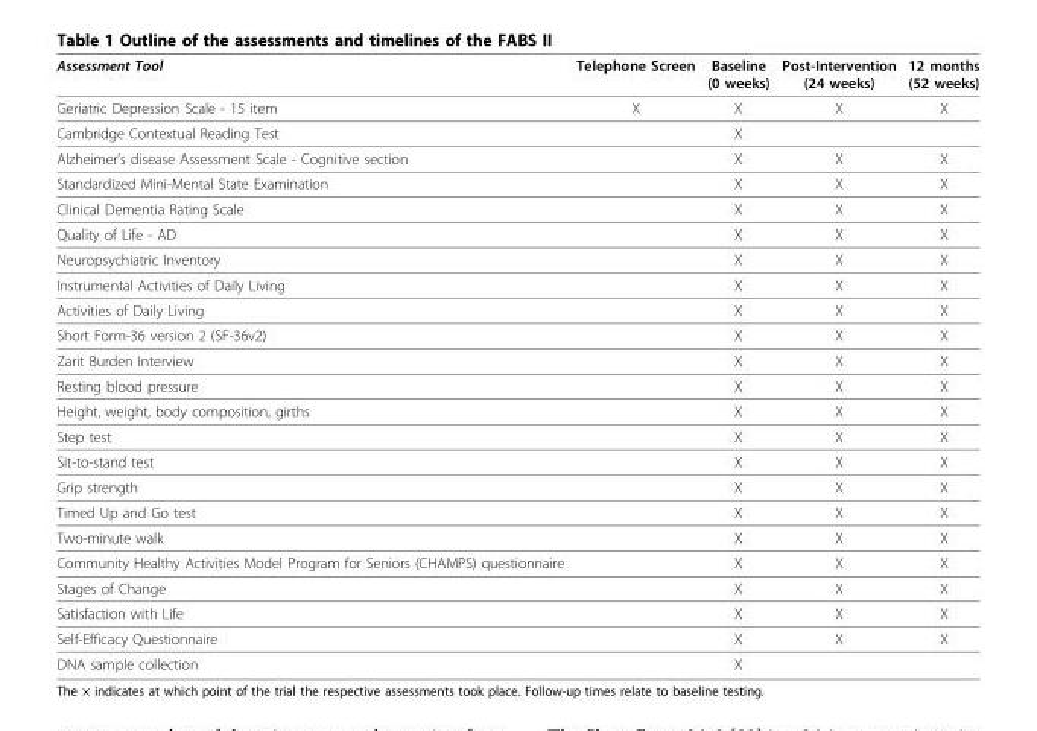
<table><thead><tr><td>Assessment Tool</td><td>Telephone Screen</td><td>Baseline (0 weeks)</td><td>Post-Intervention (24 weeks)</td><td>12 months (52 weeks)</td></tr></thead><tbody><tr><td>Geriatric Depression Scale - 15 item</td><td>X</td><td>X</td><td>X</td><td>X</td></tr><tr><td>Cambridge Contextual Reading Test</td><td></td><td>X</td><td></td><td></td></tr><tr><td>Alzheimer’s disease Assessment Scale - Cognitive section</td><td></td><td>X</td><td>X</td><td>X</td></tr><tr><td>Standardized Mini-Mental State Examination</td><td></td><td>X</td><td>X</td><td>X</td></tr><tr><td>Clinical Dementia Rating Scale</td><td></td><td>X</td><td>X</td><td>X</td></tr><tr><td>Quality of Life - AD</td><td></td><td>X</td><td>X</td><td>X</td></tr><tr><td>Neuropsychiatric Inventory</td><td></td><td>X</td><td>X</td><td>X</td></tr><tr><td>Instrumental Activities of Daily Living</td><td></td><td>X</td><td>X</td><td>X</td></tr><tr><td>Activities of Daily Living</td><td></td><td>X</td><td>X</td><td>X</td></tr><tr><td>Short Form-36 version 2 (SF-36v2)</td><td></td><td>X</td><td>X</td><td>X</td></tr><tr><td>Zarit Burden Interview</td><td></td><td>X</td><td>X</td><td>X</td></tr><tr><td>Resting blood pressure</td><td></td><td>X</td><td>X</td><td>X</td></tr><tr><td>Height, weight, body composition, girths</td><td></td><td>X</td><td>X</td><td>X</td></tr><tr><td>Step test</td><td></td><td>X</td><td>X</td><td>X</td></tr><tr><td>Sit-to-stand test</td><td></td><td>X</td><td>X</td><td>X</td></tr><tr><td>Grip strength</td><td></td><td>X</td><td>X</td><td>X</td></tr><tr><td>Timed Up and Go test</td><td></td><td>X</td><td>X</td><td>X</td></tr><tr><td>Two-minute walk</td><td></td><td>X</td><td>X</td><td>X</td></tr><tr><td>Community Healthy Activities Model Program for Seniors (CHAMPS) questionnaire</td><td></td><td>X</td><td>X</td><td>X</td></tr><tr><td>Stages of Change</td><td></td><td>X</td><td>X</td><td>X</td></tr><tr><td>Satisfaction with Life</td><td></td><td>X</td><td>X</td><td>X</td></tr><tr><td>Self-Efficacy Questionnaire</td><td></td><td>X</td><td>X</td><td>X</td></tr><tr><td>DNA sample collection</td><td></td><td>X</td><td></td><td></td></tr></tbody></table>